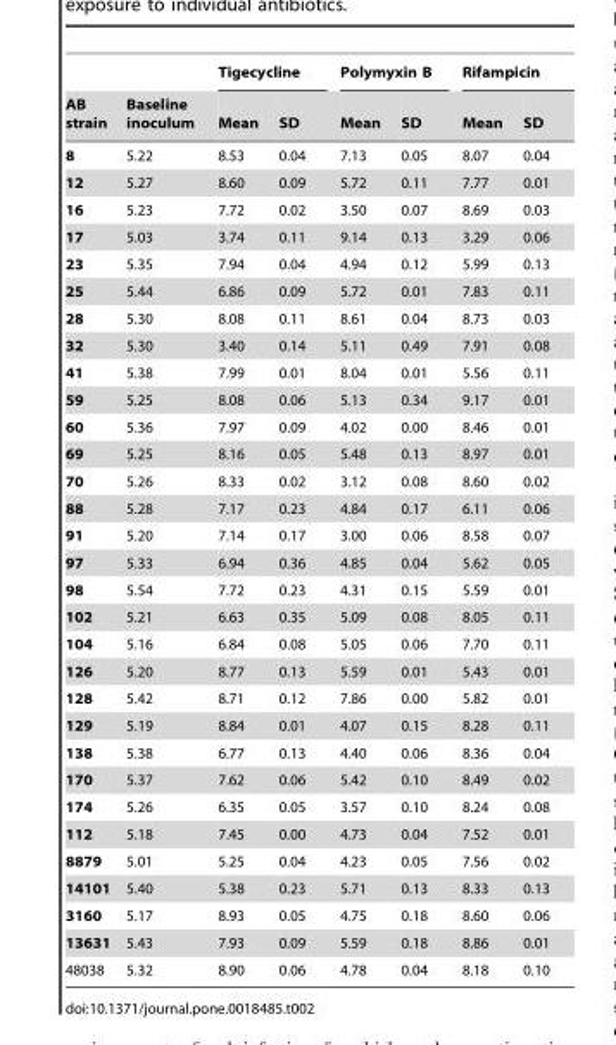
<table><thead><tr><td rowspan="2">AB strain</td><td rowspan="2">Baseline inoculum</td><td colspan="2">Tigecycline</td><td colspan="2">Polymyxin B</td><td colspan="2">Rifampicin</td></tr><tr><td>Mean</td><td>SD</td><td>Mean</td><td>SD</td><td>Mean</td><td>SD</td></tr></thead><tbody><tr><td>8</td><td>5.22</td><td>8.53</td><td>0.04</td><td>7.13</td><td>0.05</td><td>8.07</td><td>0.04</td></tr><tr><td>12</td><td>5.27</td><td>8.60</td><td>0.09</td><td>5.72</td><td>0.11</td><td>7.77</td><td>0.01</td></tr><tr><td>16</td><td>5.23</td><td>7.72</td><td>0.02</td><td>3.50</td><td>0.07</td><td>8.69</td><td>0.03</td></tr><tr><td>17</td><td>5.03</td><td>3.74</td><td>0.11</td><td>9.14</td><td>0.13</td><td>3.29</td><td>0.06</td></tr><tr><td>23</td><td>5.35</td><td>7.94</td><td>0.04</td><td>4.94</td><td>0.12</td><td>5.99</td><td>0.13</td></tr><tr><td>25</td><td>5.44</td><td>6.86</td><td>0.09</td><td>5.72</td><td>0.01</td><td>7.83</td><td>0.11</td></tr><tr><td>28</td><td>5.30</td><td>8.08</td><td>0.11</td><td>8.61</td><td>0.04</td><td>8.73</td><td>0.03</td></tr><tr><td>32</td><td>5.30</td><td>3.40</td><td>0.14</td><td>5.11</td><td>0.49</td><td>7.91</td><td>0.08</td></tr><tr><td>41</td><td>5.38</td><td>7.99</td><td>0.01</td><td>8.04</td><td>0.01</td><td>5.56</td><td>0.11</td></tr><tr><td>59</td><td>5.25</td><td>8.08</td><td>0.06</td><td>5.13</td><td>0.34</td><td>9.17</td><td>0.01</td></tr><tr><td>60</td><td>5.36</td><td>7.97</td><td>0.09</td><td>4.02</td><td>0.00</td><td>8.46</td><td>0.01</td></tr><tr><td>69</td><td>5.25</td><td>8.16</td><td>0.05</td><td>5.48</td><td>0.13</td><td>8.97</td><td>0.01</td></tr><tr><td>70</td><td>5.26</td><td>8.33</td><td>0.02</td><td>3.12</td><td>0.08</td><td>8.60</td><td>0.02</td></tr><tr><td>88</td><td>5.28</td><td>7.17</td><td>0.23</td><td>4.84</td><td>0.17</td><td>6.11</td><td>0.06</td></tr><tr><td>91</td><td>5.20</td><td>7.14</td><td>0.17</td><td>3.00</td><td>0.06</td><td>8.58</td><td>0.07</td></tr><tr><td>97</td><td>5.33</td><td>6.94</td><td>0.36</td><td>4.85</td><td>0.04</td><td>5.62</td><td>0.05</td></tr><tr><td>98</td><td>5.54</td><td>7.72</td><td>0.23</td><td>4.31</td><td>0.15</td><td>5.59</td><td>0.01</td></tr><tr><td>102</td><td>5.21</td><td>6.63</td><td>0.35</td><td>5.09</td><td>0.08</td><td>8.05</td><td>0.11</td></tr><tr><td>104</td><td>5.16</td><td>6.84</td><td>0.08</td><td>5.05</td><td>0.06</td><td>7.70</td><td>0.11</td></tr><tr><td>126</td><td>5.20</td><td>8.77</td><td>0.13</td><td>5.59</td><td>0.01</td><td>5.43</td><td>0.01</td></tr><tr><td>128</td><td>5.42</td><td>8.71</td><td>0.12</td><td>7.86</td><td>0.00</td><td>5.82</td><td>0.01</td></tr><tr><td>129</td><td>5.19</td><td>8.84</td><td>0.01</td><td>4.07</td><td>0.15</td><td>8.28</td><td>0.11</td></tr><tr><td>138</td><td>5.38</td><td>6.77</td><td>0.13</td><td>4.40</td><td>0.06</td><td>8.36</td><td>0.04</td></tr><tr><td>170</td><td>5.37</td><td>7.62</td><td>0.06</td><td>5.42</td><td>0.10</td><td>8.49</td><td>0.02</td></tr><tr><td>174</td><td>5.26</td><td>6.35</td><td>0.05</td><td>3.57</td><td>0.10</td><td>8.24</td><td>0.08</td></tr><tr><td>112</td><td>5.18</td><td>7.45</td><td>0.00</td><td>4.73</td><td>0.04</td><td>7.52</td><td>0.01</td></tr><tr><td>8879</td><td>5.01</td><td>5.25</td><td>0.04</td><td>4.23</td><td>0.05</td><td>7.56</td><td>0.02</td></tr><tr><td>14101</td><td>5.40</td><td>5.38</td><td>0.23</td><td>5.71</td><td>0.13</td><td>8.33</td><td>0.13</td></tr><tr><td>3160</td><td>5.17</td><td>8.93</td><td>0.05</td><td>4.75</td><td>0.18</td><td>8.60</td><td>0.06</td></tr><tr><td>13631</td><td>5.43</td><td>7.93</td><td>0.09</td><td>5.59</td><td>0.18</td><td>8.86</td><td>0.01</td></tr><tr><td>48038</td><td>5.32</td><td>8.90</td><td>0.06</td><td>4.78</td><td>0.04</td><td>8.18</td><td>0.10</td></tr></tbody></table>